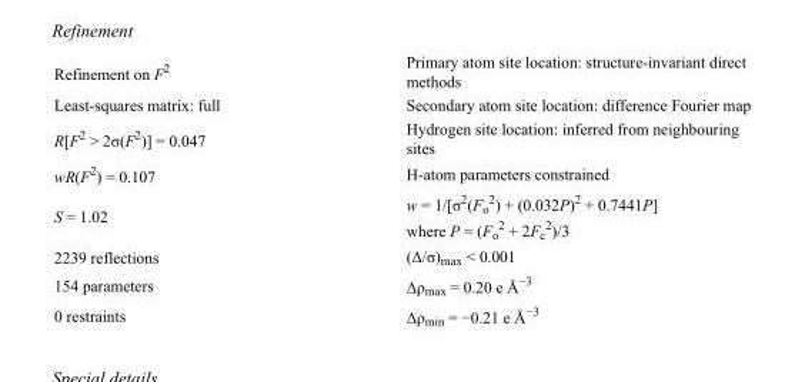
<table><tbody><tr><td>Refinement on F<sup>2</sup></td><td>Primary atom site location: structure-invariant direct methods</td></tr><tr><td>Least-squares matrix: full</td><td>Secondary atom site location: difference Fourier map</td></tr><tr><td>R[F<sup>2</sup> &gt; 2σ(F<sup>2</sup>)] = 0.047</td><td>Hydrogen site location: inferred from neighbouring sites</td></tr><tr><td>wR(F<sup>2</sup>) = 0.107</td><td>H-atom parameters constrained</td></tr><tr><td>S = 1.02</td><td>w = 1/[σ<sup>2</sup>(F<sub>o</sub> <sup>2</sup>) + (0.032P)<sup>2</sup> + 0.7441P] where P = (F<sub>o</sub> <sup>2</sup> + 2F<sub>c</sub> <sup>2</sup>)/3</td></tr><tr><td>2239 reflections</td><td>(Δ/σ)<sub>max</sub> &lt; 0.001</td></tr><tr><td>154 parameters</td><td>Δρ<sub>max</sub> = 0.20 e Å<sup>−3</sup></td></tr><tr><td>0 restraints</td><td>Δρ<sub>min</sub> = −0.21 e Å<sup>−3</sup></td></tr></tbody></table>